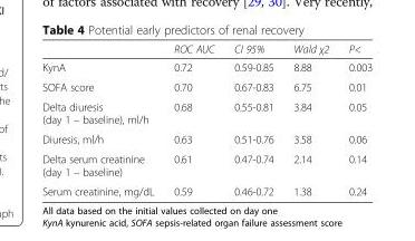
<table><thead><tr><td></td><td>ROC AUC</td><td>CI 95%</td><td>Wald χ2</td><td>P&lt;</td></tr></thead><tbody><tr><td>KynA</td><td>0.72</td><td>0.59-0.85</td><td>8.88</td><td>0.003</td></tr><tr><td>SOFA score</td><td>0.70</td><td>0.67-0.83</td><td>6.75</td><td>0.01</td></tr><tr><td>Delta diuresis (day 1 – baseline), ml/h</td><td>0.68</td><td>0.55-0.81</td><td>3.84</td><td>0.05</td></tr><tr><td>Diuresis, ml/h</td><td>0.63</td><td>0.51-0.76</td><td>3.58</td><td>0.06</td></tr><tr><td>Delta serum creatinine (day 1 – baseline)</td><td>0.61</td><td>0.47-0.74</td><td>2.14</td><td>0.14</td></tr><tr><td>Serum creatinine, mg/dL</td><td>0.59</td><td>0.46-0.72</td><td>1.38</td><td>0.24</td></tr></tbody></table>